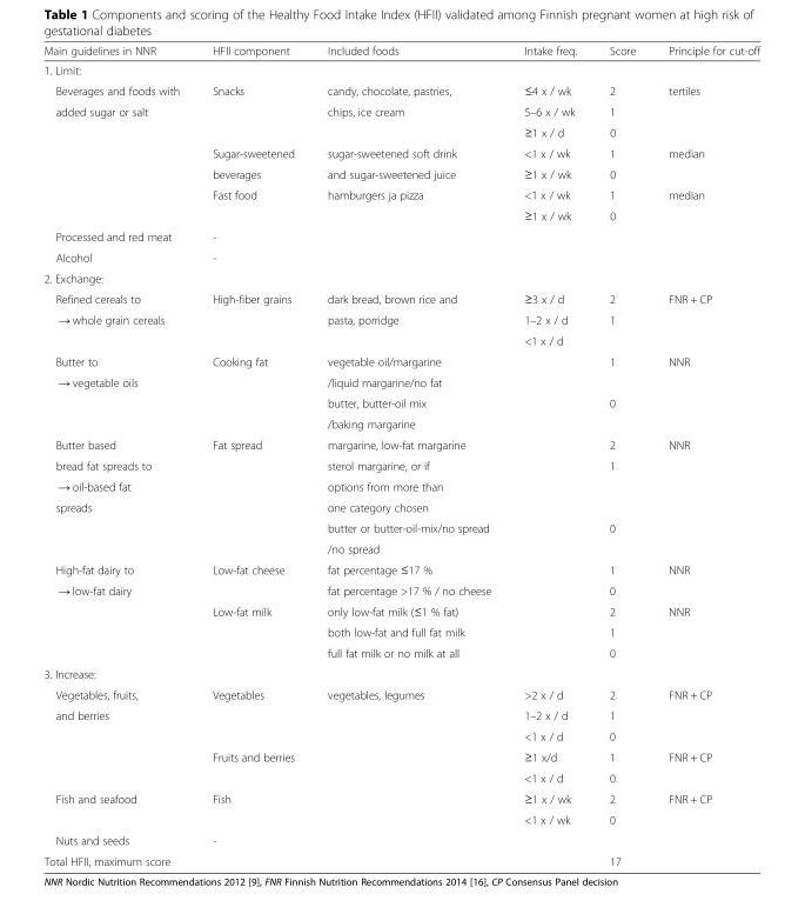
<table><thead><tr><td>Main guidelines in NNR</td><td>HFII component</td><td>Included foods</td><td>Intake freq.</td><td>Score</td><td>Principle for cut-off</td></tr></thead><tbody><tr><td colspan="6">1. Limit:</td></tr><tr><td>Beverages and foods with</td><td>Snacks</td><td>candy, chocolate, pastries,</td><td>≤4 x / wk</td><td>2</td><td>tertiles</td></tr><tr><td rowspan="6">added sugar or salt</td><td></td><td>chips, ice cream</td><td>5–6 x / wk</td><td>1</td><td></td></tr><tr><td></td><td></td><td>≥1 x / d</td><td>0</td><td></td></tr><tr><td>Sugar-sweetened</td><td>sugar-sweetened soft drink</td><td>&lt;1 x / wk</td><td>1</td><td>median</td></tr><tr><td>beverages</td><td>and sugar-sweetened juice</td><td>≥1 x / wk</td><td>0</td><td></td></tr><tr><td>Fast food</td><td>hamburgers ja pizza</td><td>&lt;1 x / wk</td><td>1</td><td>median</td></tr><tr><td></td><td></td><td>≥1 x / wk</td><td>0</td><td></td></tr><tr><td>Processed and red meat</td><td>-</td><td></td><td></td><td></td><td></td></tr><tr><td>Alcohol</td><td>-</td><td></td><td></td><td></td><td></td></tr><tr><td colspan="6">2. Exchange:</td></tr><tr><td>Refined cereals to</td><td>High-fiber grains</td><td>dark bread, brown rice and</td><td>≥3 x / d</td><td>2</td><td>FNR + CP</td></tr><tr><td rowspan="2">→ whole grain cereals</td><td></td><td>pasta, porridge</td><td>1–2 x / d</td><td>1</td><td></td></tr><tr><td></td><td></td><td>&lt;1 x / d</td><td></td><td></td></tr><tr><td>Butter to</td><td>Cooking fat</td><td>vegetable oil/margarine</td><td></td><td>1</td><td>NNR</td></tr><tr><td rowspan="3">→ vegetable oils</td><td></td><td>/liquid margarine/no fat</td><td></td><td></td><td></td></tr><tr><td></td><td>butter, butter-oil mix</td><td></td><td>0</td><td></td></tr><tr><td></td><td>/baking margarine</td><td></td><td></td><td></td></tr><tr><td>Butter based</td><td>Fat spread</td><td>margarine, low-fat margarine</td><td></td><td>2</td><td>NNR</td></tr><tr><td>bread fat spreads to</td><td></td><td>sterol margarine, or if</td><td></td><td>1</td><td></td></tr><tr><td>→ oil-based fat</td><td></td><td>options from more than</td><td></td><td></td><td></td></tr><tr><td rowspan="3">spreads</td><td></td><td colspan="2">one category chosen</td><td></td><td></td></tr><tr><td></td><td>butter or butter-oil-mix/no spread</td><td></td><td>0</td><td></td></tr><tr><td></td><td>/no spread</td><td></td><td></td><td></td></tr><tr><td>High-fat dairy to</td><td>Low-fat cheese</td><td>fat percentage ≤17 %</td><td></td><td>1</td><td>NNR</td></tr><tr><td rowspan="4">→ low-fat dairy</td><td></td><td>fat percentage &gt;17 % / no cheese</td><td></td><td>0</td><td></td></tr><tr><td>Low-fat milk</td><td>only low-fat milk (≤1 % fat)</td><td></td><td>2</td><td>NNR</td></tr><tr><td></td><td>both low-fat and full fat milk</td><td></td><td>1</td><td></td></tr><tr><td></td><td>full fat milk or no milk at all</td><td></td><td>0</td><td></td></tr><tr><td colspan="6">3. Increase:</td></tr><tr><td>Vegetables, fruits,</td><td>Vegetables</td><td>vegetables, legumes</td><td>&gt;2 x / d</td><td>2</td><td>FNR + CP</td></tr><tr><td rowspan="4">and berries</td><td></td><td></td><td>1–2 x / d</td><td>1</td><td></td></tr><tr><td></td><td></td><td>&lt;1 x / d</td><td>0</td><td></td></tr><tr><td>Fruits and berries</td><td></td><td>≥1 x/d</td><td>1</td><td>FNR + CP</td></tr><tr><td></td><td></td><td>&lt;1 x / d</td><td>0</td><td></td></tr><tr><td rowspan="2">Fish and seafood</td><td>Fish</td><td></td><td>≥1 x / wk</td><td>2</td><td>FNR + CP</td></tr><tr><td></td><td></td><td>&lt;1 x / wk</td><td>0</td><td></td></tr><tr><td>Nuts and seeds</td><td>-</td><td></td><td></td><td></td><td></td></tr><tr><td colspan="4">Total HFII, maximum score</td><td>17</td><td></td></tr></tbody></table>